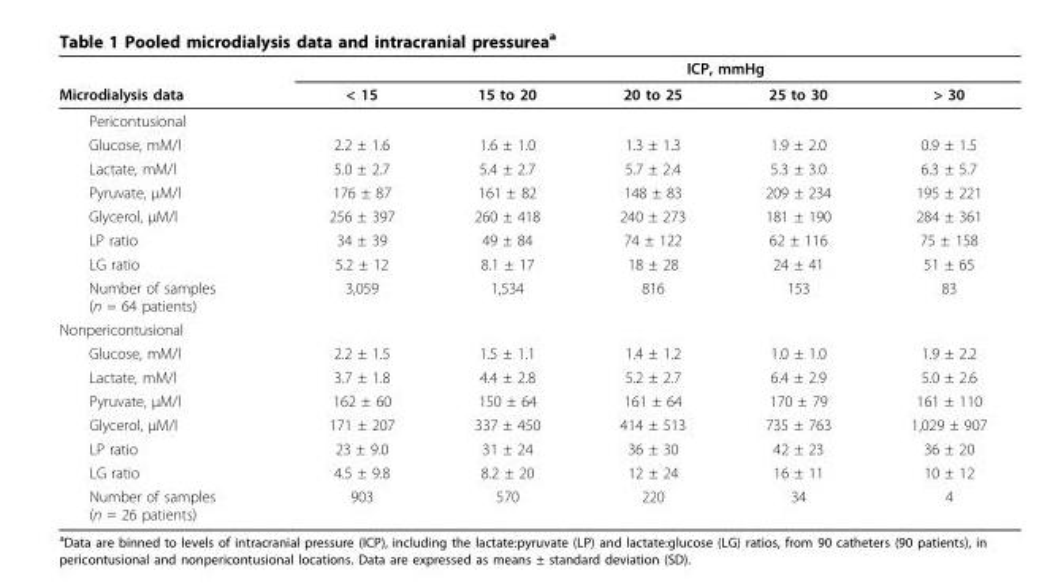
<table><thead><tr><td rowspan="2">Microdialysis data</td><td rowspan="2">&lt; 15</td><td rowspan="2">15 to 20</td><td colspan="2">ICP, mmHg</td><td rowspan="2">&gt; 30</td></tr><tr><td>20 to 25</td><td>25 to 30</td></tr></thead><tbody><tr><td colspan="6">Pericontusional</td></tr><tr><td>Glucose, mM/l</td><td>2.2 ± 1.6</td><td>1.6 ± 1.0</td><td>1.3 ± 1.3</td><td>1.9 ± 2.0</td><td>0.9 ± 1.5</td></tr><tr><td>Lactate, mM/l</td><td>5.0 ± 2.7</td><td>5.4 ± 2.7</td><td>5.7 ± 2.4</td><td>5.3 ± 3.0</td><td>6.3 ± 5.7</td></tr><tr><td>Pyruvate, μM/l</td><td>176 ± 87</td><td>161 ± 82</td><td>148 ± 83</td><td>209 ± 234</td><td>195 ± 221</td></tr><tr><td>Glycerol, μM/l</td><td>256 ± 397</td><td>260 ± 418</td><td>240 ± 273</td><td>181 ± 190</td><td>284 ± 361</td></tr><tr><td>LP ratio</td><td>34 ± 39</td><td>49 ± 84</td><td>74 ± 122</td><td>62 ± 116</td><td>75 ± 158</td></tr><tr><td>LG ratio</td><td>5.2 ± 12</td><td>8.1 ± 17</td><td>18 ± 28</td><td>24 ± 41</td><td>51 ± 65</td></tr><tr><td>Number of samples (n = 64 patients)</td><td>3,059</td><td>1,534</td><td>816</td><td>153</td><td>83</td></tr><tr><td colspan="6">Nonpericontusional</td></tr><tr><td>Glucose, mM/l</td><td>2.2 ± 1.5</td><td>1.5 ± 1.1</td><td>1.4 ± 1.2</td><td>1.0 ± 1.0</td><td>1.9 ± 2.2</td></tr><tr><td>Lactate, mM/l</td><td>3.7 ± 1.8</td><td>4.4 ± 2.8</td><td>5.2 ± 2.7</td><td>6.4 ± 2.9</td><td>5.0 ± 2.6</td></tr><tr><td>Pyruvate, μM/l</td><td>162 ± 60</td><td>150 ± 64</td><td>161 ± 64</td><td>170 ± 79</td><td>161 ± 110</td></tr><tr><td>Glycerol, μM/l</td><td>171 ± 207</td><td>337 ± 450</td><td>414 ± 513</td><td>735 ± 763</td><td>1,029 ± 907</td></tr><tr><td>LP ratio</td><td>23 ± 9.0</td><td>31 ± 24</td><td>36 ± 30</td><td>42 ± 23</td><td>36 ± 20</td></tr><tr><td>LG ratio</td><td>4.5 ± 9.8</td><td>8.2 ± 20</td><td>12 ± 24</td><td>16 ± 11</td><td>10 ± 12</td></tr><tr><td>Number of samples (n = 26 patients)</td><td>903</td><td>570</td><td>220</td><td>34</td><td>4</td></tr></tbody></table>